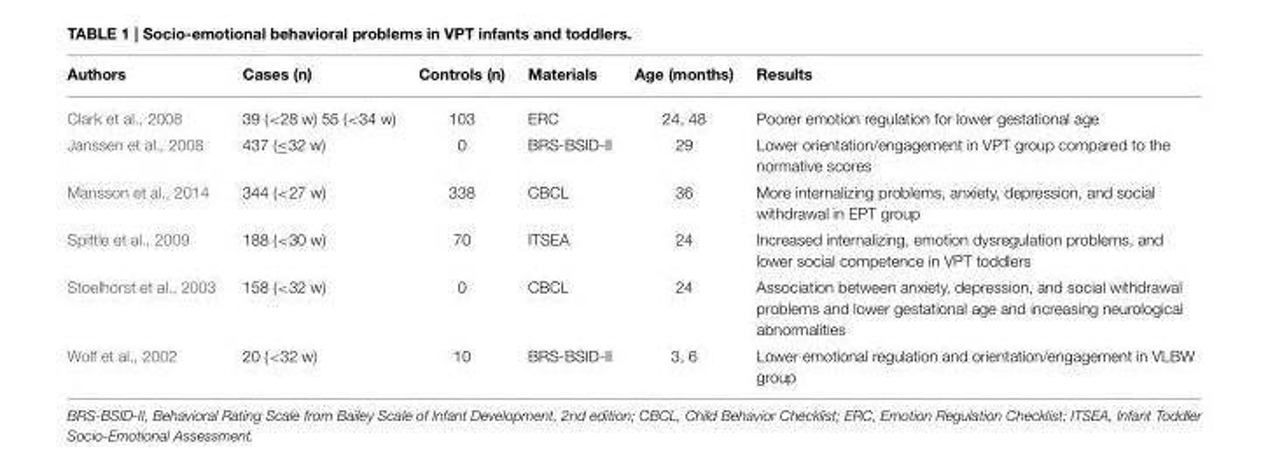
<table><thead><tr><td>Authors</td><td>Cases (n)</td><td>Controls (n)</td><td>Materials</td><td>Age (months)</td><td>Results</td></tr></thead><tbody><tr><td>Clark et al., 2008</td><td>39 (&lt;28 w) 55 (&lt;34 w)</td><td>103</td><td>ERC</td><td>24, 48</td><td>Poorer emotion regulation for lower gestational age</td></tr><tr><td>Janssen et al., 2008</td><td>437 (≤32 w)</td><td>0</td><td>BRS-BSID-II</td><td>29</td><td>Lower orientation/engagement in VPT group compared to the normative scores</td></tr><tr><td>Mansson et al., 2014</td><td>344 (&lt;27 w)</td><td>338</td><td>CBCL</td><td>36</td><td>More internalizing problems, anxiety, depression, and social withdrawal in EPT group</td></tr><tr><td>Spittle et al., 2009</td><td>188 (&lt;30 w)</td><td>70</td><td>ITSEA</td><td>24</td><td>Increased internalizing, emotion dysregulation problems, and lower social competence in VPT toddlers</td></tr><tr><td>Stoelhorst et al., 2003</td><td>158 (&lt;32 w)</td><td>0</td><td>CBCL</td><td>24</td><td>Association between anxiety, depression, and social withdrawal problems and lower gestational age and increasing neurological abnormalities</td></tr><tr><td>Wolf et al., 2002</td><td>20 (&lt;32 w)</td><td>10</td><td>BRS-BSID-II</td><td>3, 6</td><td>Lower emotional regulation and orientation/engagement in VLBW group</td></tr></tbody></table>